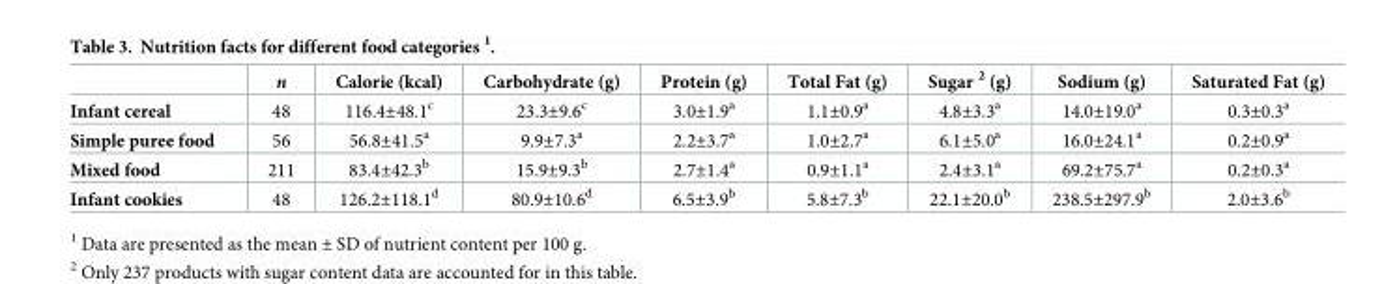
<table><thead><tr><td></td><td>n</td><td>Calorie (kcal)</td><td>Carbohydrate (g)</td><td>Protein (g)</td><td>Total Fat (g)</td><td>Sugar <sup>2</sup> (g)</td><td>Sodium (g)</td><td>Saturated Fat (g)</td></tr></thead><tbody><tr><td>Infant cereal</td><td>48</td><td>116.4±48.1<sup>c</sup></td><td>23.3±9.6<sup>c</sup></td><td>3.0±1.9<sup>a</sup></td><td>1.1±0.9<sup>a</sup></td><td>4.8±3.3<sup>a</sup></td><td>14.0±19.0<sup>a</sup></td><td>0.3±0.3<sup>a</sup></td></tr><tr><td>Simple puree food</td><td>56</td><td>56.8±41.5<sup>a</sup></td><td>9.9±7.3<sup>a</sup></td><td>2.2±3.7<sup>a</sup></td><td>1.0±2.7<sup>a</sup></td><td>6.1±5.0<sup>a</sup></td><td>16.0±24.1<sup>a</sup></td><td>0.2±0.9<sup>a</sup></td></tr><tr><td>Mixed food</td><td>211</td><td>83.4±42.3<sup>b</sup></td><td>15.9±9.3<sup>b</sup></td><td>2.7±1.4<sup>a</sup></td><td>0.9±1.1<sup>a</sup></td><td>2.4±3.1<sup>a</sup></td><td>69.2±75.7<sup>a</sup></td><td>0.2±0.3<sup>a</sup></td></tr><tr><td>Infant cookies</td><td>48</td><td>126.2±118.1<sup>d</sup></td><td>80.9±10.6<sup>d</sup></td><td>6.5±3.9<sup>b</sup></td><td>5.8±7.3<sup>b</sup></td><td>22.1±20.0<sup>b</sup></td><td>238.5±297.9<sup>b</sup></td><td>2.0±3.6<sup>b</sup></td></tr></tbody></table>